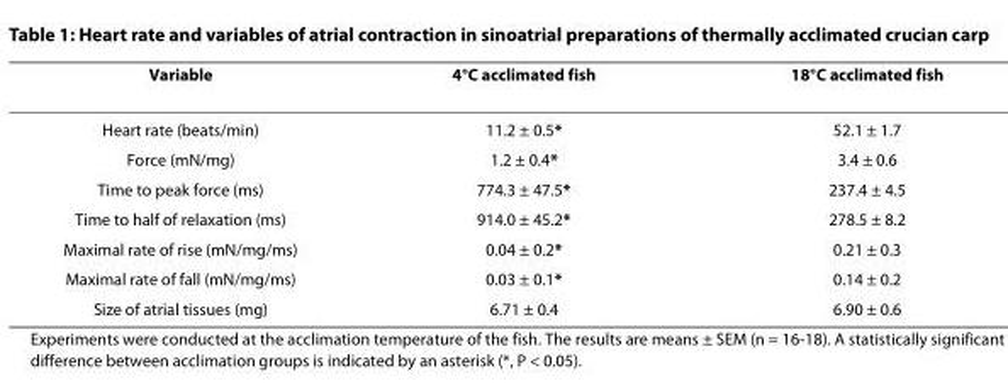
<table><thead><tr><td>Variable</td><td>4°C acclimated fish</td><td>18°C acclimated fish</td></tr></thead><tbody><tr><td>Heart rate (beats/min)</td><td>11.2 ± 0.5*</td><td>52.1 ± 1.7</td></tr><tr><td>Force (mN/mg)</td><td>1.2 ± 0.4*</td><td>3.4 ± 0.6</td></tr><tr><td>Time to peak force (ms)</td><td>774.3 ± 47.5*</td><td>237.4 ± 4.5</td></tr><tr><td>Time to half of relaxation (ms)</td><td>914.0 ± 45.2*</td><td>278.5 ± 8.2</td></tr><tr><td>Maximal rate of rise (mN/mg/ms)</td><td>0.04 ± 0.2*</td><td>0.21 ± 0.3</td></tr><tr><td>Maximal rate of fall (mN/mg/ms)</td><td>0.03 ± 0.1*</td><td>0.14 ± 0.2</td></tr><tr><td>Size of atrial tissues (mg)</td><td>6.71 ± 0.4</td><td>6.90 ± 0.6</td></tr></tbody></table>